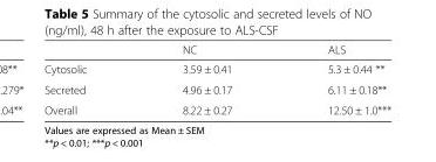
<table><thead><tr><td></td><td>NC</td><td>ALS</td></tr></thead><tbody><tr><td>Cytosolic</td><td>3.59 ± 0.41</td><td>5.3 ± 0.44 **</td></tr><tr><td>Secreted</td><td>4.96 ± 0.17</td><td>6.11 ± 0.18**</td></tr><tr><td>Overall</td><td>8.22 ± 0.27</td><td>12.50 ± 1.0***</td></tr></tbody></table>